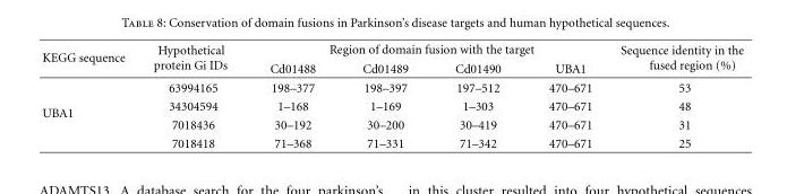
<table><thead><tr><td rowspan="2">KEGG sequence</td><td rowspan="2">Hypothetical protein Gi IDs</td><td colspan="4">Region of domain fusion with the target</td><td rowspan="2">Sequence identity in the fused region (%)</td></tr><tr><td>Cd01488</td><td>Cd01489</td><td>Cd01490</td><td>UBA1</td></tr></thead><tbody><tr><td rowspan="4">UBA1</td><td>63994165</td><td>198–377</td><td>198–397</td><td>197–512</td><td>470–671</td><td>53</td></tr><tr><td>34304594</td><td>1–168</td><td>1–169</td><td>1–303</td><td>470–671</td><td>48</td></tr><tr><td>7018436</td><td>30–192</td><td>30–200</td><td>30–419</td><td>470–671</td><td>31</td></tr><tr><td>7018418</td><td>71–368</td><td>71–331</td><td>71–342</td><td>470–671</td><td>25</td></tr></tbody></table>